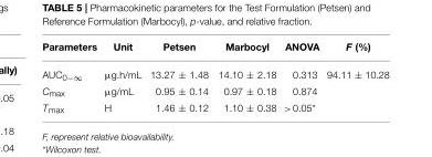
<table><thead><tr><td>Parameters</td><td>Unit</td><td>Petsen</td><td>Marbocyl</td><td>ANOVA</td><td>F (%)</td></tr></thead><tbody><tr><td>AUC<sub>0−∞</sub></td><td>µg.h/mL</td><td>13.27 ± 1.48</td><td>14.10 ± 2.18</td><td>0.313</td><td>94.11 ± 10.28</td></tr><tr><td>C<sub>max</sub></td><td>µg/mL</td><td>0.95 ± 0.14</td><td>0.97 ± 0.18</td><td>0.874</td><td></td></tr><tr><td>T<sub>max</sub></td><td>H</td><td>1.46 ± 0.12</td><td>1.10 ± 0.38</td><td>&gt;0.05*</td><td></td></tr></tbody></table>